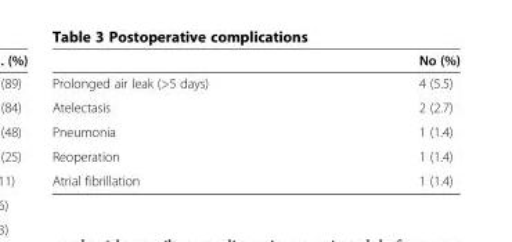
<table><thead><tr><td></td><td>No (%)</td></tr></thead><tbody><tr><td>Prolonged air leak (&gt;5 days)</td><td>4 (5.5)</td></tr><tr><td>Atelectasis</td><td>2 (2.7)</td></tr><tr><td>Pneumonia</td><td>1 (1.4)</td></tr><tr><td>Reoperation</td><td>1 (1.4)</td></tr><tr><td>Atrial fibrillation</td><td>1 (1.4)</td></tr></tbody></table>